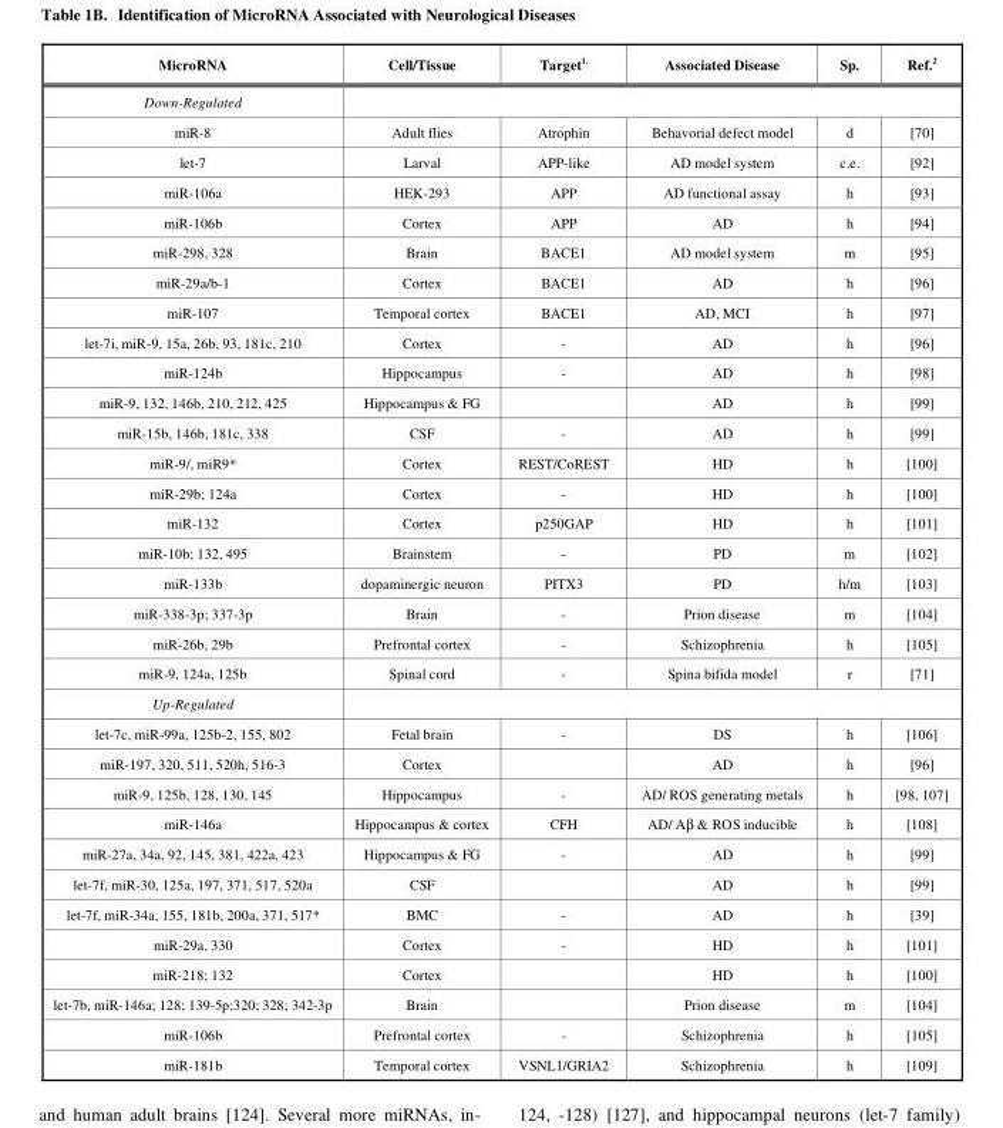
<table><thead><tr><td>MicroRNA</td><td>Cell/Tissue</td><td>Target<sup>1</sup>.</td><td>Associated Disease</td><td>Sp.</td><td>Ref.2</td></tr></thead><tbody><tr><td colspan="6">Down-Regulated</td></tr><tr><td>miR-8</td><td>Adult flies</td><td>Atrophin</td><td>Behavorial defect model</td><td>d</td><td>[70]</td></tr><tr><td>let-7</td><td>Larval</td><td>APP-like</td><td>AD model system</td><td>c.e.</td><td>[92]</td></tr><tr><td>miR-106a</td><td>HEK-293</td><td>APP</td><td>AD functional assay</td><td>h</td><td>[93]</td></tr><tr><td>miR-106b</td><td>Cortex</td><td>APP</td><td>AD</td><td>h</td><td>[94]</td></tr><tr><td>miR-298, 328</td><td>Brain</td><td>BACE1</td><td>AD model system</td><td>m</td><td>[95]</td></tr><tr><td>miR-29a/b-1</td><td>Cortex</td><td>BACE1</td><td>AD</td><td>h</td><td>[96]</td></tr><tr><td>miR-107</td><td>Temporal cortex</td><td>BACE1</td><td>AD, MCI</td><td>h</td><td>[97]</td></tr><tr><td>let-7i, miR-9, 15a, 26b, 93, 181c, 210</td><td>Cortex</td><td>-</td><td>AD</td><td>h</td><td>[96]</td></tr><tr><td>miR-124b</td><td>Hippocampus</td><td>-</td><td>AD</td><td>h</td><td>[98]</td></tr><tr><td>miR-9, 132, 146b, 210, 212, 425</td><td>Hippocampus &amp; FG</td><td></td><td>AD</td><td>h</td><td>[99]</td></tr><tr><td>miR-15b, 146b, 181c, 338</td><td>CSF</td><td>-</td><td>AD</td><td>h</td><td>[99]</td></tr><tr><td>miR-9/, miR9*</td><td>Cortex</td><td>REST/CoREST</td><td>HD</td><td>h</td><td>[100]</td></tr><tr><td>miR-29b; 124a</td><td>Cortex</td><td>-</td><td>HD</td><td>h</td><td>[100]</td></tr><tr><td>miR-132</td><td>Cortex</td><td>p250GAP</td><td>HD</td><td>h</td><td>[101]</td></tr><tr><td>miR-10b; 132, 495</td><td>Brainstem</td><td>-</td><td>PD</td><td>m</td><td>[102]</td></tr><tr><td>miR-133b</td><td>dopaminergic neuron</td><td>PITX3</td><td>PD</td><td>h/m</td><td>[103]</td></tr><tr><td>miR-338-3p; 337-3p</td><td>Brain</td><td>-</td><td>Prion disease</td><td>m</td><td>[104]</td></tr><tr><td>miR-26b, 29b</td><td>Prefrontal cortex</td><td>-</td><td>Schizophrenia</td><td>h</td><td>[105]</td></tr><tr><td>miR-9, 124a, 125b</td><td>Spinal cord</td><td>-</td><td>Spina bifida model</td><td>r</td><td>[71]</td></tr><tr><td colspan="6">Up-Regulated</td></tr><tr><td>let-7c, miR-99a, 125b-2, 155, 802</td><td>Fetal brain</td><td>-</td><td>DS</td><td>h</td><td>[106]</td></tr><tr><td>miR-197, 320, 511, 520h, 516-3</td><td>Cortex</td><td></td><td>AD</td><td>h</td><td>[96]</td></tr><tr><td>miR-9, 125b, 128, 130, 145</td><td>Hippocampus</td><td>-</td><td>AD/ ROS generating metals</td><td>h</td><td>[98, 107]</td></tr><tr><td>miR-146a</td><td>Hippocampus &amp; cortex</td><td>CFH</td><td>AD/ Aβ &amp; ROS inducible</td><td>h</td><td>[108]</td></tr><tr><td>miR-27a, 34a, 92, 145, 381, 422a, 423</td><td>Hippocampus &amp; FG</td><td>-</td><td>AD</td><td>h</td><td>[99]</td></tr><tr><td>let-7f, miR-30, 125a, 197, 371, 517, 520a</td><td>CSF</td><td></td><td>AD</td><td>h</td><td>[99]</td></tr><tr><td>let-7f, miR-34a, 155, 181b, 200a, 371, 517*</td><td>BMC</td><td>-</td><td>AD</td><td>h</td><td>[39]</td></tr><tr><td>miR-29a, 330</td><td>Cortex</td><td>-</td><td>HD</td><td>h</td><td>[101]</td></tr><tr><td>miR-218; 132</td><td>Cortex</td><td></td><td>HD</td><td>h</td><td>[100]</td></tr><tr><td>let-7b, miR-146a; 128; 139-5p;320; 328; 342-3p</td><td>Brain</td><td></td><td>Prion disease</td><td>m</td><td>[104]</td></tr><tr><td>miR-106b</td><td>Prefrontal cortex</td><td>-</td><td>Schizophrenia</td><td>h</td><td>[105]</td></tr><tr><td>miR-181b</td><td>Temporal cortex</td><td>VSNL1/GRIA2</td><td>Schizophrenia</td><td>h</td><td>[109]</td></tr></tbody></table>